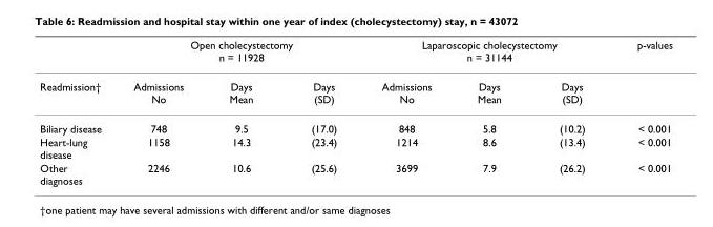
<table><thead><tr><td rowspan="2">Readmission†</td><td colspan="3">Open cholecystectomy n = 11928</td><td colspan="3">Laparoscopic cholecystectomy n = 31144</td><td rowspan="2">p-values</td></tr><tr><td>Admissions No</td><td>Days Mean</td><td>Days (SD)</td><td>Admissions No</td><td>Days Mean</td><td>Days (SD)</td></tr></thead><tbody><tr><td>Biliary disease</td><td>748</td><td>9.5</td><td>(17.0)</td><td>848</td><td>5.8</td><td>(10.2)</td><td>&lt; 0.001</td></tr><tr><td>Heart-lung disease</td><td>1158</td><td>14.3</td><td>(23.4)</td><td>1214</td><td>8.6</td><td>(13.4)</td><td>&lt; 0.001</td></tr><tr><td>Other diagnoses</td><td>2246</td><td>10.6</td><td>(25.6)</td><td>3699</td><td>7.9</td><td>(26.2)</td><td>&lt; 0.001</td></tr></tbody></table>